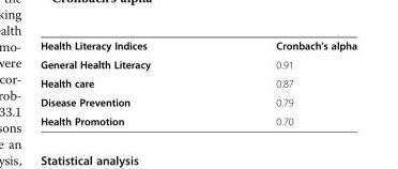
<table><tbody><tr><td>Health Literacy Indices</td><td>Cronbach’s alpha</td></tr><tr><td>General Health Literacy</td><td>0.91</td></tr><tr><td>Health care</td><td>0.87</td></tr><tr><td>Disease Prevention</td><td>0.79</td></tr><tr><td>Health Promotion</td><td>0.70</td></tr></tbody></table>